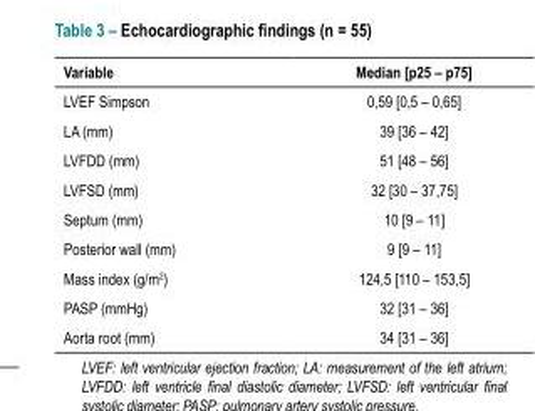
<table><thead><tr><td>Variable</td><td>Median [p25 – p75]</td></tr></thead><tbody><tr><td>LVEF Simpson</td><td>0,59 [0,5 – 0,65]</td></tr><tr><td>LA (mm)</td><td>39 [36 – 42]</td></tr><tr><td>LVFDD (mm)</td><td>51 [48 – 56]</td></tr><tr><td>LVFSD (mm)</td><td>32 [30 – 37,75]</td></tr><tr><td>Septum (mm)</td><td>10 [9 – 11]</td></tr><tr><td>Posterior wall (mm)</td><td>9 [9 – 11]</td></tr><tr><td>Mass index (g/m<sup>2</sup>)</td><td>124,5 [110 – 153,5]</td></tr><tr><td>PASP (mmHg)</td><td>32 [31 – 36]</td></tr><tr><td>Aorta root (mm)</td><td>34 [31 – 36]</td></tr></tbody></table>